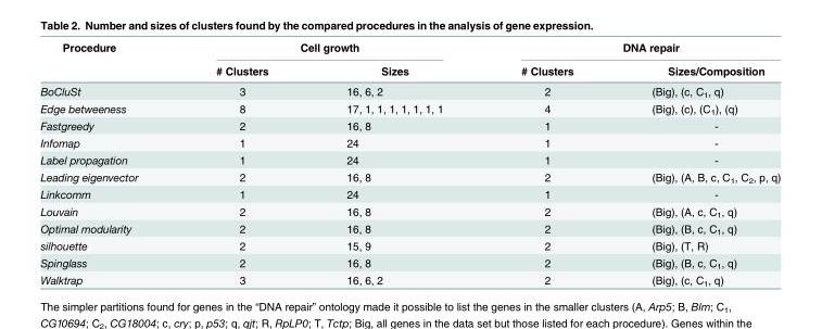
<table><thead><tr><td rowspan="2">Procedure</td><td colspan="2">Cell growth</td><td colspan="2">DNA repair</td></tr><tr><td># Clusters</td><td>Sizes</td><td># Clusters</td><td>Sizes/Composition</td></tr></thead><tbody><tr><td>BoCluSt</td><td>3</td><td>16, 6, 2</td><td>2</td><td>(Big), (c, C<sub>1</sub>, q)</td></tr><tr><td>Edge betweeness</td><td>8</td><td>17, 1, 1, 1, 1, 1, 1, 1</td><td>4</td><td>(Big), (c), (C<sub>1</sub>), (q)</td></tr><tr><td>Fastgreedy</td><td>2</td><td>16, 8</td><td>1</td><td>-</td></tr><tr><td>Infomap</td><td>1</td><td>24</td><td>1</td><td>-</td></tr><tr><td>Label propagation</td><td>1</td><td>24</td><td>1</td><td>-</td></tr><tr><td>Leading eigenvector</td><td>2</td><td>16, 8</td><td>2</td><td>(Big), (A, B, c, C<sub>1</sub>, C<sub>2</sub>, p, q)</td></tr><tr><td>Linkcomm</td><td>1</td><td>24</td><td>1</td><td>-</td></tr><tr><td>Louvain</td><td>2</td><td>16, 8</td><td>2</td><td>(Big), (A, c, C<sub>1</sub>, q)</td></tr><tr><td>Optimal modularity</td><td>2</td><td>16, 8</td><td>2</td><td>(Big), (B, c, C<sub>1</sub>, q)</td></tr><tr><td>silhouette</td><td>2</td><td>15, 9</td><td>2</td><td>(Big), (T, R)</td></tr><tr><td>Spinglass</td><td>2</td><td>16, 8</td><td>2</td><td>(Big), (B, c, C<sub>1</sub>, q)</td></tr><tr><td>Walktrap</td><td>3</td><td>16, 6, 2</td><td>2</td><td>(Big), (c, C<sub>1</sub>, q)</td></tr></tbody></table>